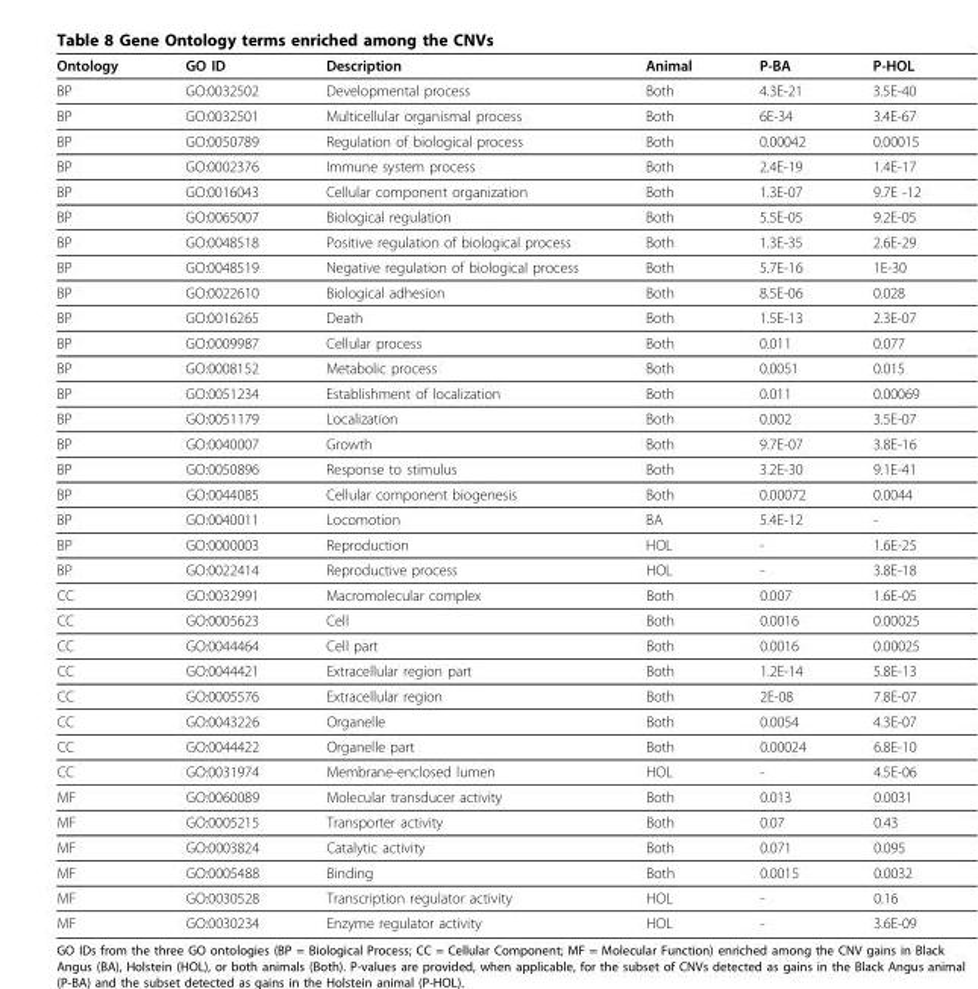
<table><thead><tr><td>Ontology</td><td>GO ID</td><td>Description</td><td>Animal</td><td>P-BA</td><td>P-HOL</td></tr></thead><tbody><tr><td>BP</td><td>GO:0032502</td><td>Developmental process</td><td>Both</td><td>4.3E-21</td><td>3.5E-40</td></tr><tr><td>BP</td><td>GO:0032501</td><td>Multicellular organismal process</td><td>Both</td><td>6E-34</td><td>3.4E-67</td></tr><tr><td>BP</td><td>GO:0050789</td><td>Regulation of biological process</td><td>Both</td><td>0.00042</td><td>0.00015</td></tr><tr><td>BP</td><td>GO:0002376</td><td>Immune system process</td><td>Both</td><td>2.4E-19</td><td>1.4E-17</td></tr><tr><td>BP</td><td>GO:0016043</td><td>Cellular component organization</td><td>Both</td><td>1.3E-07</td><td>9.7E -12</td></tr><tr><td>BP</td><td>GO:0065007</td><td>Biological regulation</td><td>Both</td><td>5.5E-05</td><td>9.2E-05</td></tr><tr><td>BP</td><td>GO:0048518</td><td>Positive regulation of biological process</td><td>Both</td><td>1.3E-35</td><td>2.6E-29</td></tr><tr><td>BP</td><td>GO:0048519</td><td>Negative regulation of biological process</td><td>Both</td><td>5.7E-16</td><td>1E-30</td></tr><tr><td>BP</td><td>GO:0022610</td><td>Biological adhesion</td><td>Both</td><td>8.5E-06</td><td>0.028</td></tr><tr><td>BP</td><td>GO:0016265</td><td>Death</td><td>Both</td><td>1.5E-13</td><td>2.3E-07</td></tr><tr><td>BP</td><td>GO:0009987</td><td>Cellular process</td><td>Both</td><td>0.011</td><td>0.077</td></tr><tr><td>BP</td><td>GO:0008152</td><td>Metabolic process</td><td>Both</td><td>0.0051</td><td>0.015</td></tr><tr><td>BP</td><td>GO:0051234</td><td>Establishment of localization</td><td>Both</td><td>0.011</td><td>0.00069</td></tr><tr><td>BP</td><td>GO:0051179</td><td>Localization</td><td>Both</td><td>0.002</td><td>3.5E-07</td></tr><tr><td>BP</td><td>GO:0040007</td><td>Growth</td><td>Both</td><td>9.7E-07</td><td>3.8E-16</td></tr><tr><td>BP</td><td>GO:0050896</td><td>Response to stimulus</td><td>Both</td><td>3.2E-30</td><td>9.1E-41</td></tr><tr><td>BP</td><td>GO:0044085</td><td>Cellular component biogenesis</td><td>Both</td><td>0.00072</td><td>0.0044</td></tr><tr><td>BP</td><td>GO:0040011</td><td>Locomotion</td><td>BA</td><td>5.4E-12</td><td>-</td></tr><tr><td>BP</td><td>GO:0000003</td><td>Reproduction</td><td>HOL</td><td>-</td><td>1.6E-25</td></tr><tr><td>BP</td><td>GO:0022414</td><td>Reproductive process</td><td>HOL</td><td>-</td><td>3.8E-18</td></tr><tr><td>CC</td><td>GO:0032991</td><td>Macromolecular complex</td><td>Both</td><td>0.007</td><td>1.6E-05</td></tr><tr><td>CC</td><td>GO:0005623</td><td>Cell</td><td>Both</td><td>0.0016</td><td>0.00025</td></tr><tr><td>CC</td><td>GO:0044464</td><td>Cell part</td><td>Both</td><td>0.0016</td><td>0.00025</td></tr><tr><td>CC</td><td>GO:0044421</td><td>Extracellular region part</td><td>Both</td><td>1.2E-14</td><td>5.8E-13</td></tr><tr><td>CC</td><td>GO:0005576</td><td>Extracellular region</td><td>Both</td><td>2E-08</td><td>7.8E-07</td></tr><tr><td>CC</td><td>GO:0043226</td><td>Organelle</td><td>Both</td><td>0.0054</td><td>4.3E-07</td></tr><tr><td>CC</td><td>GO:0044422</td><td>Organelle part</td><td>Both</td><td>0.00024</td><td>6.8E-10</td></tr><tr><td>CC</td><td>GO:0031974</td><td>Membrane-enclosed lumen</td><td>HOL</td><td>-</td><td>4.5E-06</td></tr><tr><td>MF</td><td>GO:0060089</td><td>Molecular transducer activity</td><td>Both</td><td>0.013</td><td>0.0031</td></tr><tr><td>MF</td><td>GO:0005215</td><td>Transporter activity</td><td>Both</td><td>0.07</td><td>0.43</td></tr><tr><td>MF</td><td>GO:0003824</td><td>Catalytic activity</td><td>Both</td><td>0.071</td><td>0.095</td></tr><tr><td>MF</td><td>GO:0005488</td><td>Binding</td><td>Both</td><td>0.0015</td><td>0.0032</td></tr><tr><td>MF</td><td>GO:0030528</td><td>Transcription regulator activity</td><td>HOL</td><td>-</td><td>0.16</td></tr><tr><td>MF</td><td>GO:0030234</td><td>Enzyme regulator activity</td><td>HOL</td><td>-</td><td>3.6E-09</td></tr></tbody></table>